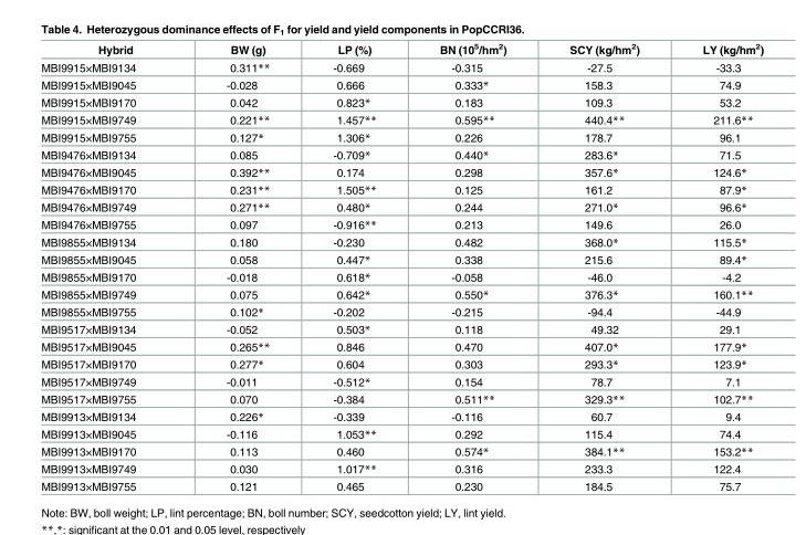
<table><thead><tr><td>Hybrid</td><td>BW (g)</td><td>LP (%)</td><td>BN (10<sup>5</sup>/hm<sup>2</sup>)</td><td>SCY (kg/hm<sup>2</sup>)</td><td>LY (kg/hm<sup>2</sup>)</td></tr></thead><tbody><tr><td>MBI9915×MBI9134</td><td>0.311**</td><td>-0.669</td><td>-0.315</td><td>-27.5</td><td>-33.3</td></tr><tr><td>MBI9915×MBI9045</td><td>-0.028</td><td>0.666</td><td>0.333*</td><td>158.3</td><td>74.9</td></tr><tr><td>MBI9915×MBI9170</td><td>0.042</td><td>0.823*</td><td>0.183</td><td>109.3</td><td>53.2</td></tr><tr><td>MBI9915×MBI9749</td><td>0.221**</td><td>1.457**</td><td>0.595**</td><td>440.4**</td><td>211.6**</td></tr><tr><td>MBI9915×MBI9755</td><td>0.127*</td><td>1.306*</td><td>0.226</td><td>178.7</td><td>96.1</td></tr><tr><td>MBI9476×MBI9134</td><td>0.085</td><td>-0.709*</td><td>0.440*</td><td>283.6*</td><td>71.5</td></tr><tr><td>MBI9476×MBI9045</td><td>0.392**</td><td>0.174</td><td>0.298</td><td>357.6*</td><td>124.6*</td></tr><tr><td>MBI9476×MBI9170</td><td>0.231**</td><td>1.505**</td><td>0.125</td><td>161.2</td><td>87.9*</td></tr><tr><td>MBI9476×MBI9749</td><td>0.271**</td><td>0.480*</td><td>0.244</td><td>271.0*</td><td>96.6*</td></tr><tr><td>MBI9476×MBI9755</td><td>0.097</td><td>-0.916**</td><td>0.213</td><td>149.6</td><td>26.0</td></tr><tr><td>MBI9855×MBI9134</td><td>0.180</td><td>-0.230</td><td>0.482</td><td>368.0*</td><td>115.5*</td></tr><tr><td>MBI9855×MBI9045</td><td>0.058</td><td>0.447*</td><td>0.338</td><td>215.6</td><td>89.4*</td></tr><tr><td>MBI9855×MBI9170</td><td>-0.018</td><td>0.618*</td><td>-0.058</td><td>-46.0</td><td>-4.2</td></tr><tr><td>MBI9855×MBI9749</td><td>0.075</td><td>0.642*</td><td>0.550*</td><td>376.3*</td><td>160.1**</td></tr><tr><td>MBI9855×MBI9755</td><td>0.102*</td><td>-0.202</td><td>-0.215</td><td>-94.4</td><td>-44.9</td></tr><tr><td>MBI9517×MBI9134</td><td>-0.052</td><td>0.503*</td><td>0.118</td><td>49.32</td><td>29.1</td></tr><tr><td>MBI9517×MBI9045</td><td>0.265**</td><td>0.846</td><td>0.470</td><td>407.0*</td><td>177.9*</td></tr><tr><td>MBI9517×MBI9170</td><td>0.277*</td><td>0.604</td><td>0.303</td><td>293.3*</td><td>123.9*</td></tr><tr><td>MBI9517×MBI9749</td><td>-0.011</td><td>-0.512*</td><td>0.154</td><td>78.7</td><td>7.1</td></tr><tr><td>MBI9517×MBI9755</td><td>0.070</td><td>-0.384</td><td>0.511**</td><td>329.3**</td><td>102.7**</td></tr><tr><td>MBI9913×MBI9134</td><td>0.226*</td><td>-0.339</td><td>-0.116</td><td>60.7</td><td>9.4</td></tr><tr><td>MBI9913×MBI9045</td><td>-0.116</td><td>1.053**</td><td>0.292</td><td>115.4</td><td>74.4</td></tr><tr><td>MBI9913×MBI9170</td><td>0.113</td><td>0.460</td><td>0.574*</td><td>384.1**</td><td>153.2**</td></tr><tr><td>MBI9913×MBI9749</td><td>0.030</td><td>1.017**</td><td>0.316</td><td>233.3</td><td>122.4</td></tr><tr><td>MBI9913×MBI9755</td><td>0.121</td><td>0.465</td><td>0.230</td><td>184.5</td><td>75.7</td></tr></tbody></table>